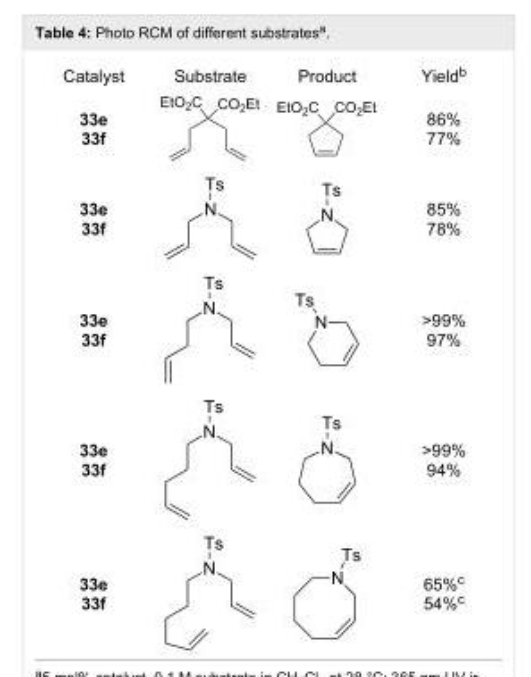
<table><tbody><tr><td>Catalyst</td><td>Substrate</td><td>Product</td><td>Yield<sup>b</sup></td></tr><tr><td>33e 33f</td><td></td><td></td><td>86% 77%</td></tr><tr><td>33e 33f</td><td></td><td></td><td>85% 78%</td></tr><tr><td>33e 33f</td><td></td><td></td><td>&gt;99% 97%</td></tr><tr><td>33e 33f</td><td></td><td></td><td>&gt;99% 94%</td></tr><tr><td>33e 33f</td><td></td><td></td><td>65%<sup>c</sup> 54%<sup>c</sup></td></tr></tbody></table>